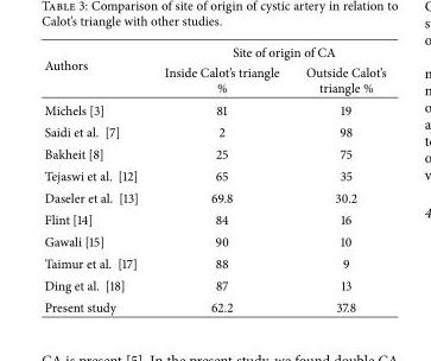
<table><thead><tr><td rowspan="2">Authors</td><td colspan="2">Site of origin of CA</td></tr><tr><td>Inside Calot’s triangle %</td><td>Outside Calot’s triangle %</td></tr></thead><tbody><tr><td>Michels [3]</td><td>81</td><td>19</td></tr><tr><td>Saidi et al. [7]</td><td>2</td><td>98</td></tr><tr><td>Bakheit [8]</td><td>25</td><td>75</td></tr><tr><td>Tejaswi et al. [12]</td><td>65</td><td>35</td></tr><tr><td>Daseler et al. [13]</td><td>69.8</td><td>30.2</td></tr><tr><td>Flint [14]</td><td>84</td><td>16</td></tr><tr><td>Gawali [15]</td><td>90</td><td>10</td></tr><tr><td>Taimur et al. [17]</td><td>88</td><td>9</td></tr><tr><td>Ding et al. [18]</td><td>87</td><td>13</td></tr><tr><td>Present study</td><td>62.2</td><td>37.8</td></tr></tbody></table>